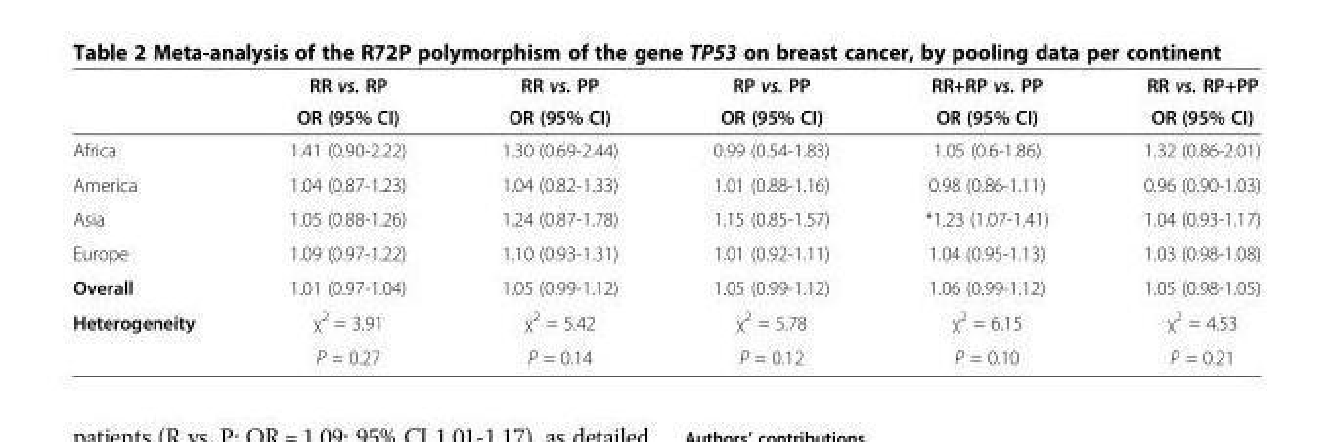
<table><thead><tr><td rowspan="2"></td><td rowspan="2">RR vs. RP OR (95% CI)</td><td rowspan="2">RR vs. PP OR (95% CI)</td><td rowspan="2">RP vs. PP OR (95% CI)</td><td rowspan="2">RR+RP vs. PP OR (95% CI)</td><td rowspan="2">RR vs. RP+PP OR (95% CI)</td></tr><tr></tr></thead><tbody><tr><td>Africa</td><td>1.41 (0.90-2.22)</td><td>1.30 (0.69-2.44)</td><td>0.99 (0.54-1.83)</td><td>1.05 (0.6-1.86)</td><td>1.32 (0.86-2.01)</td></tr><tr><td>America</td><td>1.04 (0.87-1.23)</td><td>1.04 (0.82-1.33)</td><td>1.01 (0.88-1.16)</td><td>0.98 (0.86-1.11)</td><td>0.96 (0.90-1.03)</td></tr><tr><td>Asia</td><td>1.05 (0.88-1.26)</td><td>1.24 (0.87-1.78)</td><td>1.15 (0.85-1.57)</td><td>*1.23 (1.07-1.41)</td><td>1.04 (0.93-1.17)</td></tr><tr><td>Europe</td><td>1.09 (0.97-1.22)</td><td>1.10 (0.93-1.31)</td><td>1.01 (0.92-1.11)</td><td>1.04 (0.95-1.13)</td><td>1.03 (0.98-1.08)</td></tr><tr><td>Overall</td><td>1.01 (0.97-1.04)</td><td>1.05 (0.99-1.12)</td><td>1.05 (0.99-1.12)</td><td>1.06 (0.99-1.12)</td><td>1.05 (0.98-1.05)</td></tr><tr><td rowspan="2">Heterogeneity</td><td>χ<sup>2</sup> = 3.91</td><td>χ<sup>2</sup> = 5.42</td><td>χ<sup>2</sup> = 5.78</td><td>χ<sup>2</sup> = 6.15</td><td>χ<sup>2</sup> = 4.53</td></tr><tr><td>P = 0.27</td><td>P = 0.14</td><td>P = 0.12</td><td>P = 0.10</td><td>P = 0.21</td></tr></tbody></table>